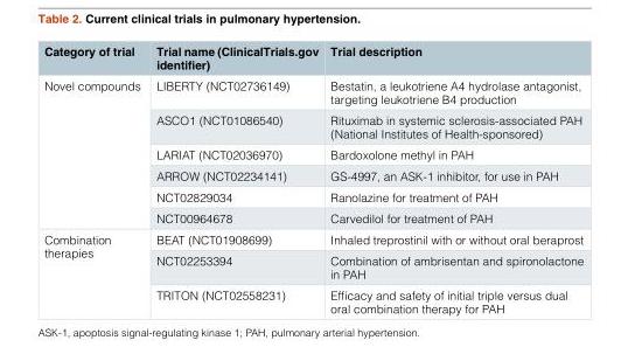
<table><thead><tr><td>Category of trial</td><td>Trial name (ClinicalTrials.gov identifier)</td><td>Trial description</td></tr></thead><tbody><tr><td rowspan="6">Novel compounds</td><td>LIBERTY (NCT02736149)</td><td>Bestatin, a leukotriene A4 hydrolase antagonist, targeting leukotriene B4 production</td></tr><tr><td>ASCO1 (NCT01086540)</td><td>Rituximab in systemic sclerosis-associated PAH (National Institutes of Health-sponsored)</td></tr><tr><td>LARIAT (NCT02036970)</td><td>Bardoxolone methyl in PAH</td></tr><tr><td>ARROW (NCT02234141)</td><td>GS-4997, an ASK-1 inhibitor, for use in PAH</td></tr><tr><td>NCT02829034</td><td>Ranolazine for treatment of PAH</td></tr><tr><td>NCT00964678</td><td>Carvedilol for treatment of PAH</td></tr><tr><td rowspan="3">Combination therapies</td><td>BEAT (NCT01908699)</td><td>Inhaled treprostinil with or without oral beraprost</td></tr><tr><td>NCT02253394</td><td>Combination of ambrisentan and spironolactone in PAH</td></tr><tr><td>TRITON (NCT02558231)</td><td>Efficacy and safety of initial triple versus dual oral combination therapy for PAH</td></tr></tbody></table>